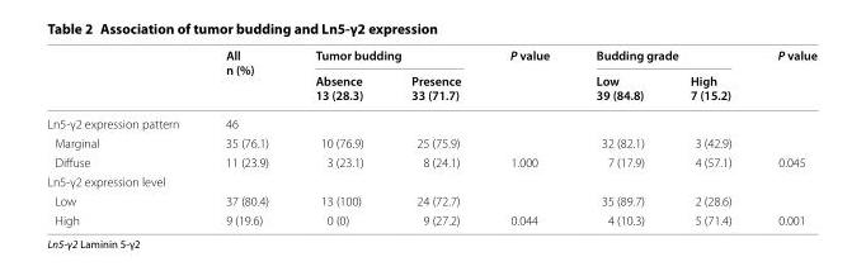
<table><thead><tr><td rowspan="2"></td><td rowspan="2">All n (%)</td><td colspan="2">Tumor budding</td><td rowspan="2">P value</td><td colspan="2">Budding grade</td><td rowspan="2">P value</td></tr><tr><td>Absence 13 (28.3)</td><td>Presence 33 (71.7)</td><td>Low 39 (84.8)</td><td>High 7 (15.2)</td></tr></thead><tbody><tr><td>Ln5-γ2 expression pattern</td><td>46</td><td></td><td></td><td></td><td></td><td></td><td></td></tr><tr><td>Marginal</td><td>35 (76.1)</td><td>10 (76.9)</td><td>25 (75.9)</td><td></td><td>32 (82.1)</td><td>3 (42.9)</td><td></td></tr><tr><td>Diffuse</td><td>11 (23.9)</td><td>3 (23.1)</td><td>8 (24.1)</td><td>1.000</td><td>7 (17.9)</td><td>4 (57.1)</td><td>0.045</td></tr><tr><td colspan="8">Ln5-γ2 expression level</td></tr><tr><td>Low</td><td>37 (80.4)</td><td>13 (100)</td><td>24 (72.7)</td><td></td><td>35 (89.7)</td><td>2 (28.6)</td><td></td></tr><tr><td>High</td><td>9 (19.6)</td><td>0 (0)</td><td>9 (27.2)</td><td>0.044</td><td>4 (10.3)</td><td>5 (71.4)</td><td>0.001</td></tr></tbody></table>